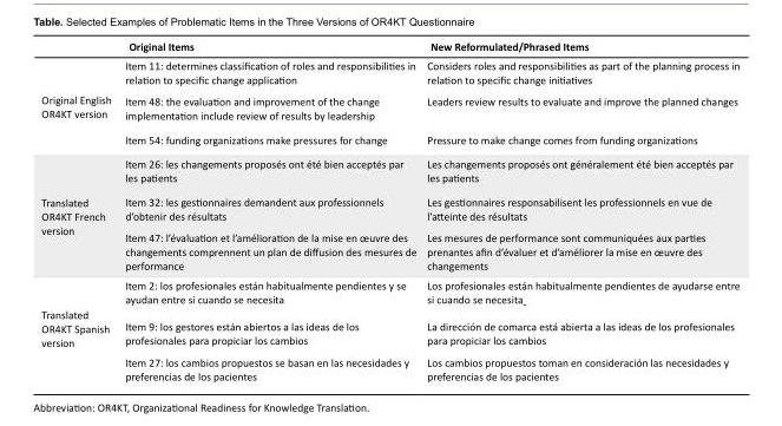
<table><thead><tr><td></td><td>Original Items</td><td>New Reformulated/Phrased Items</td></tr></thead><tbody><tr><td rowspan="3">Original English OR4KT version</td><td>Item 11: determines classification of roles and responsibilities in relation to specific change application</td><td>Considers roles and responsibilities as part of the planning process in relation to specific change initiatives</td></tr><tr><td>Item 48: the evaluation and improvement of the change implementation include review of results by leadership</td><td>Leaders review results to evaluate and improve the planned changes</td></tr><tr><td>Item 54: funding organizations make pressures for change</td><td>Pressure to make change comes from funding organizations</td></tr><tr><td rowspan="3">Translated OR4KT French version</td><td>Item 26: les changements proposés ont été bien acceptés par les patients</td><td>Les changements proposés ont généralement été bien acceptés par les patients</td></tr><tr><td>Item 32: les gestionnaires demandent aux professionnels d’obtenir des résultats</td><td>Les gestionnaires responsabilisent les professionnels en vue de l’atteinte des résultats</td></tr><tr><td>Item 47: l’évaluation et l’amélioration de la mise en œuvre des changements comprennent un plan de diffusion des mesures de performance</td><td>Les mesures de performance sont communiquées aux parties prenantes afin d’évaluer et d’améliorer la mise en œuvre des changements</td></tr><tr><td rowspan="3">Translated OR4KT Spanish version</td><td>Item 2: los profesionales están habitualmente pendientes y se ayudan entre si cuando se necesita</td><td>Los profesionales están habitualmente pendientes de ayudarse entre si cuando se necesita</td></tr><tr><td>Item 9: los gestores están abiertos a las ideas de los profesionales para propiciar los cambios</td><td>La dirección de comarca está abierta a las ideas de los profesionales para propiciar los cambios</td></tr><tr><td>Item 27: los cambios propuestos se basan en las necesidades y preferencias de los pacientes</td><td>Los cambios propuestos toman en consideración las necesidades y preferencias de los pacientes</td></tr></tbody></table>